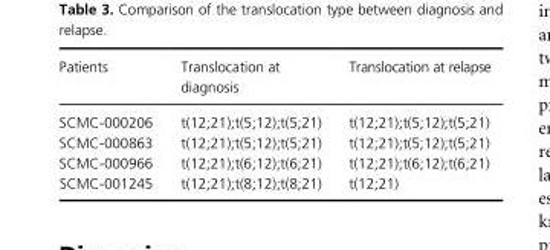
<table><thead><tr><td>Patients</td><td>Translocation at diagnosis</td><td>Translocation at relapse</td></tr></thead><tbody><tr><td>SCMC- 000206</td><td>t(12;21);t(5;12);t(5;21)</td><td>t(12;21);t(5;12);t(5;21)</td></tr><tr><td>SCMC- 000863</td><td>t(12;21);t(5;12);t(5;21)</td><td>t(12;21);t(5;12);t(5;21)</td></tr><tr><td>SCMC- 000966</td><td>t(12;21);t(6;12);t(6;21)</td><td>t(12;21);t(6;12);t(6;21)</td></tr><tr><td>SCMC- 001245</td><td>t(12;21);t(8;12);t(8;21)</td><td>t(12;21)</td></tr></tbody></table>